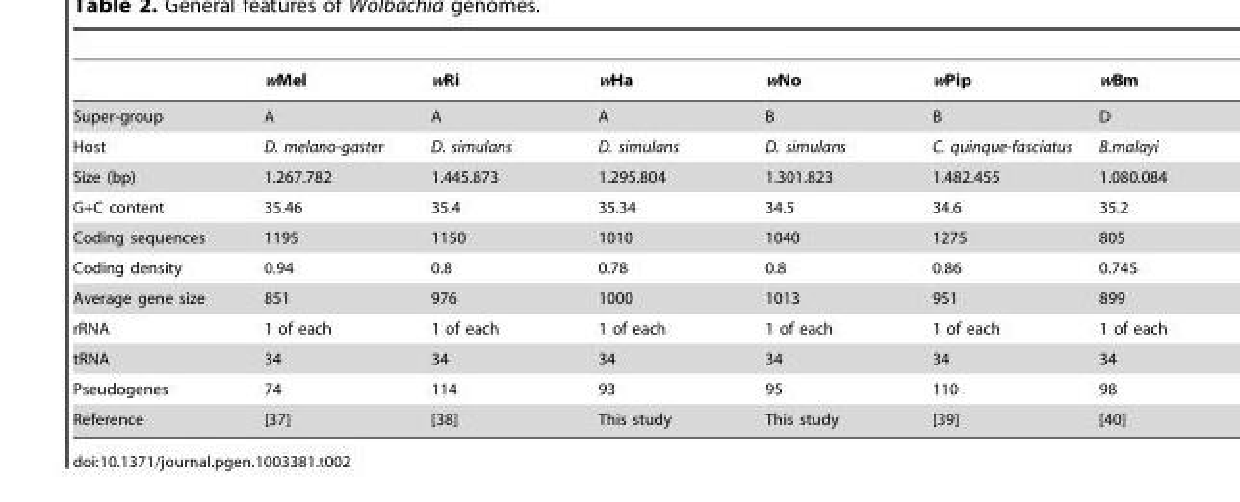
<table><thead><tr><td></td><td>wMel</td><td>wRi</td><td>wHa</td><td>wNo</td><td>wPip</td><td>wBm</td></tr></thead><tbody><tr><td>Super-group</td><td>A</td><td>A</td><td>A</td><td>B</td><td>B</td><td>D</td></tr><tr><td>Host</td><td>D. melano-gaster</td><td>D. simulans</td><td>D. simulans</td><td>D. simulans</td><td>C. quinque-fasciatus</td><td>B.malayi</td></tr><tr><td>Size (bp)</td><td>1.267.782</td><td>1.445.873</td><td>1.295.804</td><td>1.301.823</td><td>1.482.455</td><td>1.080.084</td></tr><tr><td>G+C content</td><td>35.46</td><td>35.4</td><td>35.34</td><td>34.5</td><td>34.6</td><td>35.2</td></tr><tr><td>Coding sequences</td><td>1195</td><td>1150</td><td>1010</td><td>1040</td><td>1275</td><td>805</td></tr><tr><td>Coding density</td><td>0.94</td><td>0.8</td><td>0.78</td><td>0.8</td><td>0.86</td><td>0.745</td></tr><tr><td>Average gene size</td><td>851</td><td>976</td><td>1000</td><td>1013</td><td>951</td><td>899</td></tr><tr><td>rRNA</td><td>1 of each</td><td>1 of each</td><td>1 of each</td><td>1 of each</td><td>1 of each</td><td>1 of each</td></tr><tr><td>tRNA</td><td>34</td><td>34</td><td>34</td><td>34</td><td>34</td><td>34</td></tr><tr><td>Pseudogenes</td><td>74</td><td>114</td><td>93</td><td>95</td><td>110</td><td>98</td></tr><tr><td>Reference</td><td>[37]</td><td>[38]</td><td>This study</td><td>This study</td><td>[39]</td><td>[40]</td></tr></tbody></table>